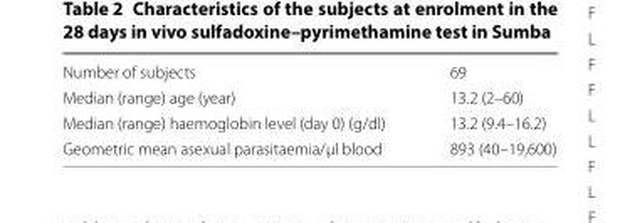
<table><tbody><tr><td>Number of subjects</td><td>69</td></tr><tr><td>Median (range) age (year)</td><td>13.2 (2–60)</td></tr><tr><td>Median (range) haemoglobin level (day 0) (g/dl)</td><td>13.2 (9.4–16.2)</td></tr><tr><td>Geometric mean asexual parasitaemia/µl blood</td><td>893 (40–19,600)</td></tr></tbody></table>